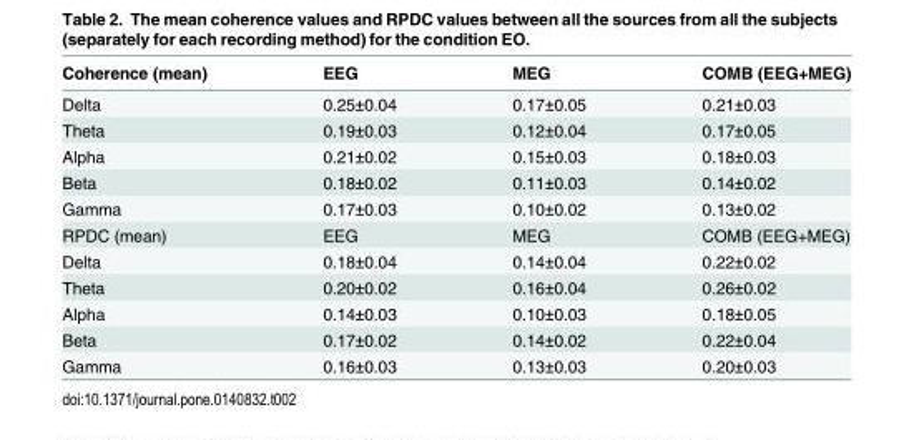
<table><thead><tr><td>Coherence (mean)</td><td>EEG</td><td>MEG</td><td>COMB (EEG+MEG)</td></tr></thead><tbody><tr><td>Delta</td><td>0.25±0.04</td><td>0.17±0.05</td><td>0.21±0.03</td></tr><tr><td>Theta</td><td>0.19±0.03</td><td>0.12±0.04</td><td>0.17±0.05</td></tr><tr><td>Alpha</td><td>0.21±0.02</td><td>0.15±0.03</td><td>0.18±0.03</td></tr><tr><td>Beta</td><td>0.18±0.02</td><td>0.11±0.03</td><td>0.14±0.02</td></tr><tr><td>Gamma</td><td>0.17±0.03</td><td>0.10±0.02</td><td>0.13±0.02</td></tr><tr><td>RPDC (mean)</td><td>EEG</td><td>MEG</td><td>COMB (EEG+MEG)</td></tr><tr><td>Delta</td><td>0.18±0.04</td><td>0.14±0.04</td><td>0.22±0.02</td></tr><tr><td>Theta</td><td>0.20±0.02</td><td>0.16±0.04</td><td>0.26±0.02</td></tr><tr><td>Alpha</td><td>0.14±0.03</td><td>0.10±0.03</td><td>0.18±0.05</td></tr><tr><td>Beta</td><td>0.17±0.02</td><td>0.14±0.02</td><td>0.22±0.04</td></tr><tr><td>Gamma</td><td>0.16±0.03</td><td>0.13±0.03</td><td>0.20±0.03</td></tr></tbody></table>